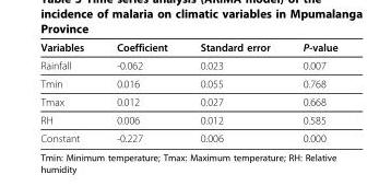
<table><thead><tr><td>Variables</td><td>Coefficient</td><td>Standard error</td><td>P-value</td></tr></thead><tbody><tr><td>Rainfall</td><td>-0.062</td><td>0.023</td><td>0.007</td></tr><tr><td>Tmin</td><td>0.016</td><td>0.055</td><td>0.768</td></tr><tr><td>Tmax</td><td>0.012</td><td>0.027</td><td>0.668</td></tr><tr><td>RH</td><td>0.006</td><td>0.012</td><td>0.585</td></tr><tr><td>Constant</td><td>-0.227</td><td>0.006</td><td>0.000</td></tr></tbody></table>